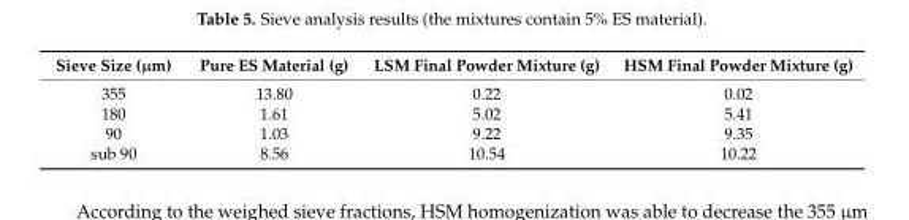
<table><thead><tr><td>Sieve Size (µm)</td><td>Pure ES Material (g)</td><td>LSM Final Powder Mixture (g)</td><td>HSM Final Powder Mixture (g)</td></tr></thead><tbody><tr><td>355</td><td>13.80</td><td>0.22</td><td>0.02</td></tr><tr><td>180</td><td>1.61</td><td>5.02</td><td>5.41</td></tr><tr><td>90</td><td>1.03</td><td>9.22</td><td>9.35</td></tr><tr><td>sub 90</td><td>8.56</td><td>10.54</td><td>10.22</td></tr></tbody></table>